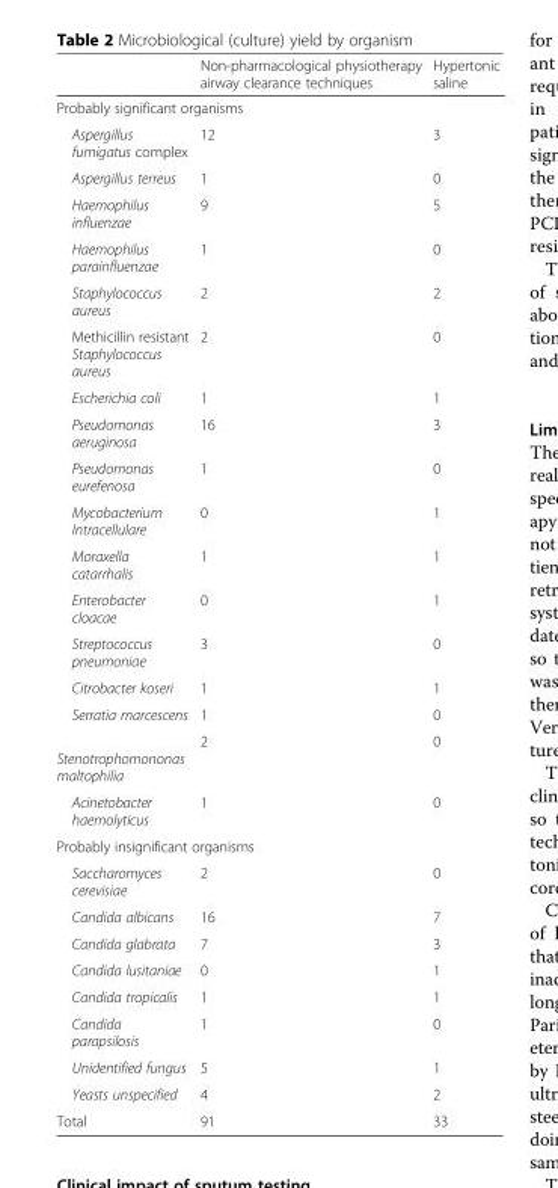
<table><thead><tr><td></td><td>Non-pharmacological physiotherapy airway clearance techniques</td><td>Hypertonic saline</td></tr></thead><tbody><tr><td colspan="3">Probably significant organisms</td></tr><tr><td>Aspergillus fumigatus complex</td><td>12</td><td>3</td></tr><tr><td>Aspergillus terreus</td><td>1</td><td>0</td></tr><tr><td>Haemophilus influenzae</td><td>9</td><td>5</td></tr><tr><td>Haemophilus parainfluenzae</td><td>1</td><td>0</td></tr><tr><td>Staphylococcus aureus</td><td>2</td><td>2</td></tr><tr><td>Methicillin resistant Staphylococcus aureus</td><td>2</td><td>0</td></tr><tr><td>Escherichia coli</td><td>1</td><td>1</td></tr><tr><td>Pseudomonas aeruginosa</td><td>16</td><td>3</td></tr><tr><td>Pseudomonas eurefenosa</td><td>1</td><td>0</td></tr><tr><td>Mycobacterium Intracellulare</td><td>0</td><td>1</td></tr><tr><td>Moraxella catarrhalis</td><td>1</td><td>1</td></tr><tr><td>Enterobacter cloacae</td><td>0</td><td>1</td></tr><tr><td>Streptococcus pneumoniae</td><td>3</td><td>0</td></tr><tr><td>Citrobacter koseri</td><td>1</td><td>1</td></tr><tr><td>Serratia marcescens</td><td>1</td><td>0</td></tr><tr><td>Stenotrophomononas maltophilia</td><td>2</td><td>0</td></tr><tr><td>Acinetobacter haemolyticus</td><td>1</td><td>0</td></tr><tr><td colspan="3">Probably insignificant organisms</td></tr><tr><td>Saccharomyces cerevisiae</td><td>2</td><td>0</td></tr><tr><td>Candida albicans</td><td>16</td><td>7</td></tr><tr><td>Candida glabrata</td><td>7</td><td>3</td></tr><tr><td>Candida lusitaniae</td><td>0</td><td>1</td></tr><tr><td>Candida tropicalis</td><td>1</td><td>1</td></tr><tr><td>Candida parapsilosis</td><td>1</td><td>0</td></tr><tr><td>Unidentified fungus</td><td>5</td><td>1</td></tr><tr><td>Yeasts unspecified</td><td>4</td><td>2</td></tr><tr><td>Total</td><td>91</td><td>33</td></tr></tbody></table>